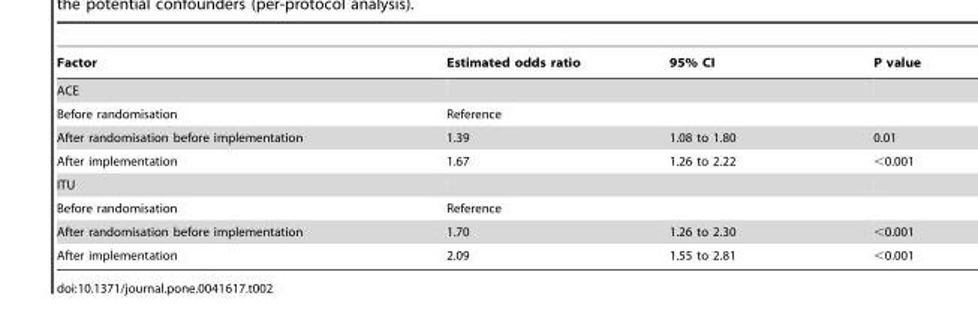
<table><thead><tr><td>Factor</td><td>Estimated odds ratio</td><td>95% CI</td><td>P value</td></tr></thead><tbody><tr><td colspan="4">ACE</td></tr><tr><td>Before randomisation</td><td>Reference</td><td></td><td></td></tr><tr><td>After randomisation before implementation</td><td>1.39</td><td>1.08 to 1.80</td><td>0.01</td></tr><tr><td>After implementation</td><td>1.67</td><td>1.26 to 2.22</td><td>&lt;0.001</td></tr><tr><td colspan="4">ITU</td></tr><tr><td>Before randomisation</td><td>Reference</td><td></td><td></td></tr><tr><td>After randomisation before implementation</td><td>1.70</td><td>1.26 to 2.30</td><td>&lt;0.001</td></tr><tr><td>After implementation</td><td>2.09</td><td>1.55 to 2.81</td><td>&lt;0.001</td></tr></tbody></table>